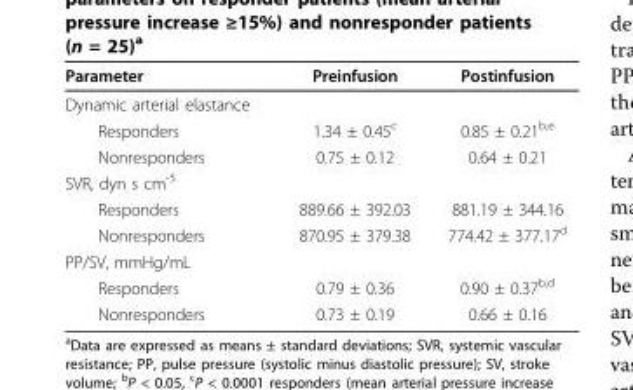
<table><thead><tr><td>Parameter</td><td>Preinfusion</td><td>Postinfusion</td></tr></thead><tbody><tr><td colspan="3">Dynamic arterial elastance</td></tr><tr><td>Responders</td><td>1.34 ± 0.45<sup>c</sup></td><td>0.85 ± 0.21<sup>b,e</sup></td></tr><tr><td>Nonresponders</td><td>0.75 ± 0.12</td><td>0.64 ± 0.21</td></tr><tr><td colspan="3">SVR, dyn s cm<sup>-5</sup></td></tr><tr><td>Responders</td><td>889.66 ± 392.03</td><td>881.19 ± 344.16</td></tr><tr><td>Nonresponders</td><td>870.95 ± 379.38</td><td>774.42 ± 377.17<sup>d</sup></td></tr><tr><td colspan="3">PP/SV, mmHg/mL</td></tr><tr><td>Responders</td><td>0.79 ± 0.36</td><td>0.90 ± 0.37<sup>b,d</sup></td></tr><tr><td>Nonresponders</td><td>0.73 ± 0.19</td><td>0.66 ± 0.16</td></tr></tbody></table>